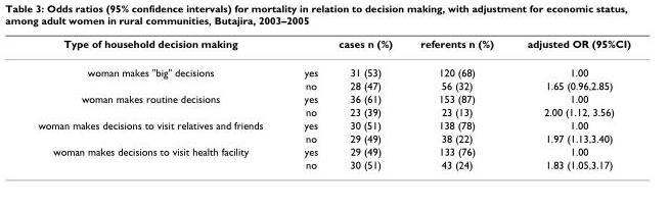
<table><thead><tr><td>Type of household decision making</td><td></td><td>cases n (%)</td><td>referents n (%)</td><td>adjusted OR (95%CI)</td></tr></thead><tbody><tr><td rowspan="2">woman makes &quot;big&quot; decisions</td><td>yes</td><td>31 (53)</td><td>120 (68)</td><td>1.00</td></tr><tr><td>no</td><td>28 (47)</td><td>56 (32)</td><td>1.65 (0.96,2.85)</td></tr><tr><td rowspan="2">woman makes routine decisions</td><td>yes</td><td>36 (61)</td><td>153 (87)</td><td>1.00</td></tr><tr><td>no</td><td>23 (39)</td><td>23 (13)</td><td>2.00 (1.12, 3.56)</td></tr><tr><td rowspan="2">woman makes decisions to visit relatives and friends</td><td>yes</td><td>30 (51)</td><td>138 (78)</td><td>1.00</td></tr><tr><td>no</td><td>29 (49)</td><td>38 (22)</td><td>1.97 (1.13,3.40)</td></tr><tr><td rowspan="2">woman makes decisions to visit health facility</td><td>yes</td><td>29 (49)</td><td>133 (76)</td><td>1.00</td></tr><tr><td>no</td><td>30 (51)</td><td>43 (24)</td><td>1.83 (1.05,3.17)</td></tr></tbody></table>